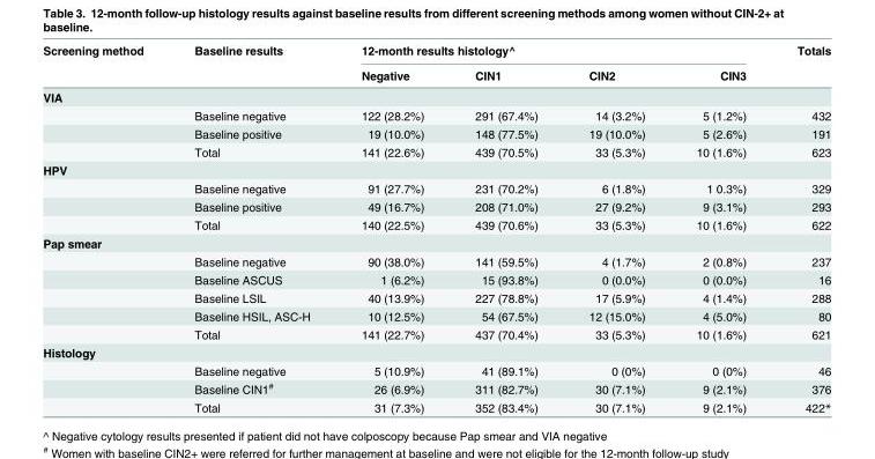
<table><thead><tr><td rowspan="2">Screening method</td><td rowspan="2">Baseline results</td><td colspan="4">12-month results histology^</td><td rowspan="2">Totals</td></tr><tr><td>Negative</td><td>CIN1</td><td>CIN2</td><td>CIN3</td></tr></thead><tbody><tr><td colspan="7">VIA</td></tr><tr><td></td><td>Baseline negative</td><td>122 (28.2%)</td><td>291 (67.4%)</td><td>14 (3.2%)</td><td>5 (1.2%)</td><td>432</td></tr><tr><td></td><td>Baseline positive</td><td>19 (10.0%)</td><td>148 (77.5%)</td><td>19 (10.0%)</td><td>5 (2.6%)</td><td>191</td></tr><tr><td></td><td>Total</td><td>141 (22.6%)</td><td>439 (70.5%)</td><td>33 (5.3%)</td><td>10 (1.6%)</td><td>623</td></tr><tr><td colspan="7">HPV</td></tr><tr><td></td><td>Baseline negative</td><td>91 (27.7%)</td><td>231 (70.2%)</td><td>6 (1.8%)</td><td>1 0.3%)</td><td>329</td></tr><tr><td></td><td>Baseline positive</td><td>49 (16.7%)</td><td>208 (71.0%)</td><td>27 (9.2%)</td><td>9 (3.1%)</td><td>293</td></tr><tr><td></td><td>Total</td><td>140 (22.5%)</td><td>439 (70.6%)</td><td>33 (5.3%)</td><td>10 (1.6%)</td><td>622</td></tr><tr><td colspan="7">Pap smear</td></tr><tr><td></td><td>Baseline negative</td><td>90 (38.0%)</td><td>141 (59.5%)</td><td>4 (1.7%)</td><td>2 (0.8%)</td><td>237</td></tr><tr><td></td><td>Baseline ASCUS</td><td>1 (6.2%)</td><td>15 (93.8%)</td><td>0 (0.0%)</td><td>0 (0.0%)</td><td>16</td></tr><tr><td></td><td>Baseline LSIL</td><td>40 (13.9%)</td><td>227 (78.8%)</td><td>17 (5.9%)</td><td>4 (1.4%)</td><td>288</td></tr><tr><td></td><td>Baseline HSIL, ASC-H</td><td>10 (12.5%)</td><td>54 (67.5%)</td><td>12 (15.0%)</td><td>4 (5.0%)</td><td>80</td></tr><tr><td></td><td>Total</td><td>141 (22.7%)</td><td>437 (70.4%)</td><td>33 (5.3%)</td><td>10 (1.6%)</td><td>621</td></tr><tr><td colspan="7">Histology</td></tr><tr><td></td><td>Baseline negative</td><td>5 (10.9%)</td><td>41 (89.1%)</td><td>0 (0%)</td><td>0 (0%)</td><td>46</td></tr><tr><td></td><td>Baseline CIN1<sup>#</sup></td><td>26 (6.9%)</td><td>311 (82.7%)</td><td>30 (7.1%)</td><td>9 (2.1%)</td><td>376</td></tr><tr><td></td><td>Total</td><td>31 (7.3%)</td><td>352 (83.4%)</td><td>30 (7.1%)</td><td>9 (2.1%)</td><td>422*</td></tr></tbody></table>